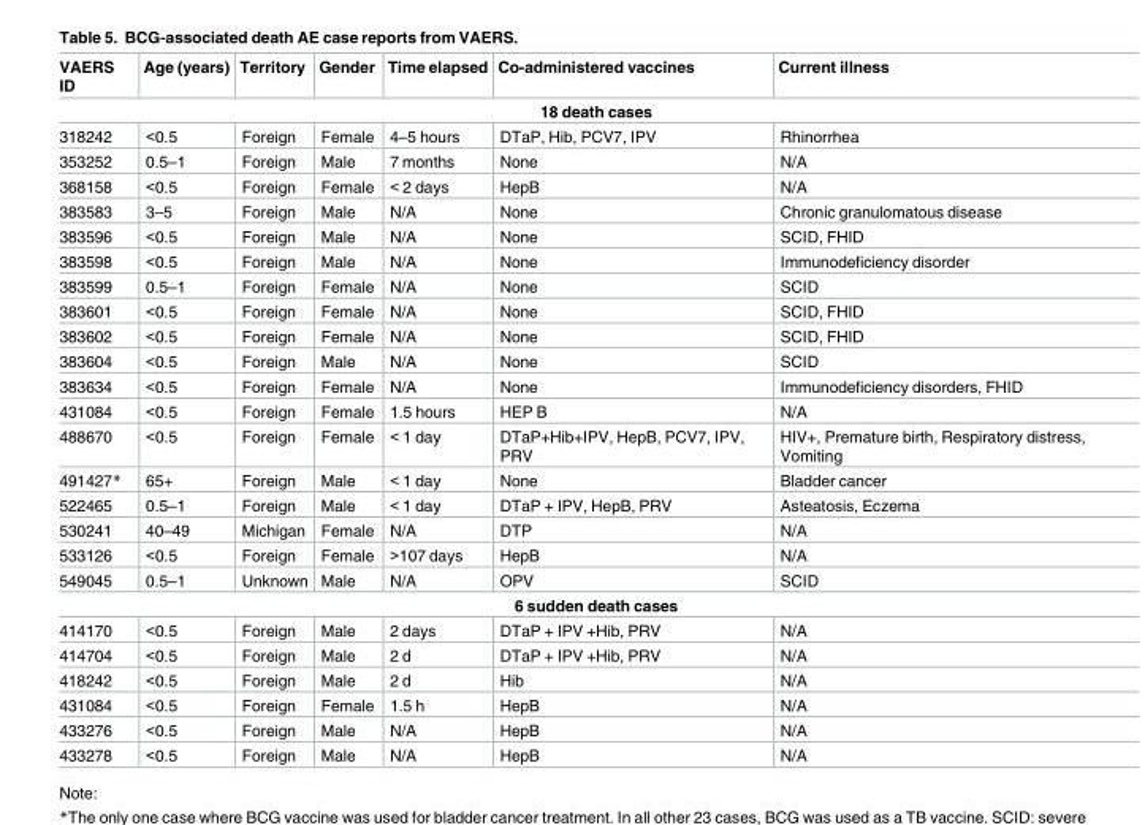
<table><thead><tr><td>VAERS ID</td><td>Age (years)</td><td>Territory</td><td>Gender</td><td>Time elapsed</td><td>Co-administered vaccines</td><td>Current illness</td></tr></thead><tbody><tr><td colspan="7">18 death cases</td></tr><tr><td>318242</td><td>&lt;0.5</td><td>Foreign</td><td>Female</td><td>4–5 hours</td><td>DTaP, Hib, PCV7, IPV</td><td>Rhinorrhea</td></tr><tr><td>353252</td><td>0.5–1</td><td>Foreign</td><td>Male</td><td>7 months</td><td>None</td><td>N/A</td></tr><tr><td>368158</td><td>&lt;0.5</td><td>Foreign</td><td>Female</td><td>&lt; 2 days</td><td>HepB</td><td>N/A</td></tr><tr><td>383583</td><td>3–5</td><td>Foreign</td><td>Male</td><td>N/A</td><td>None</td><td>Chronic granulomatous disease</td></tr><tr><td>383596</td><td>&lt;0.5</td><td>Foreign</td><td>Male</td><td>N/A</td><td>None</td><td>SCID, FHID</td></tr><tr><td>383598</td><td>&lt;0.5</td><td>Foreign</td><td>Male</td><td>N/A</td><td>None</td><td>Immunodeficiency disorder</td></tr><tr><td>383599</td><td>0.5–1</td><td>Foreign</td><td>Female</td><td>N/A</td><td>None</td><td>SCID</td></tr><tr><td>383601</td><td>&lt;0.5</td><td>Foreign</td><td>Female</td><td>N/A</td><td>None</td><td>SCID, FHID</td></tr><tr><td>383602</td><td>&lt;0.5</td><td>Foreign</td><td>Female</td><td>N/A</td><td>None</td><td>SCID, FHID</td></tr><tr><td>383604</td><td>&lt;0.5</td><td>Foreign</td><td>Male</td><td>N/A</td><td>None</td><td>SCID</td></tr><tr><td>383634</td><td>&lt;0.5</td><td>Foreign</td><td>Female</td><td>N/A</td><td>None</td><td>Immunodeficiency disorders, FHID</td></tr><tr><td>431084</td><td>&lt;0.5</td><td>Foreign</td><td>Female</td><td>1.5 hours</td><td>HEP B</td><td>N/A</td></tr><tr><td>488670</td><td>&lt;0.5</td><td>Foreign</td><td>Female</td><td>&lt; 1 day</td><td>DTaP+Hib+IPV, HepB, PCV7, IPV, PRV</td><td>HIV+, Premature birth, Respiratory distress, Vomiting</td></tr><tr><td>491427*</td><td>65+</td><td>Foreign</td><td>Male</td><td>&lt; 1 day</td><td>None</td><td>Bladder cancer</td></tr><tr><td>522465</td><td>0.5–1</td><td>Foreign</td><td>Male</td><td>&lt; 1 day</td><td>DTaP + IPV, HepB, PRV</td><td>Asteatosis, Eczema</td></tr><tr><td>530241</td><td>40–49</td><td>Michigan</td><td>Female</td><td>N/A</td><td>DTP</td><td>N/A</td></tr><tr><td>533126</td><td>&lt;0.5</td><td>Foreign</td><td>Female</td><td>&gt;107 days</td><td>HepB</td><td>N/A</td></tr><tr><td>549045</td><td>0.5–1</td><td>Unknown</td><td>Male</td><td>N/A</td><td>OPV</td><td>SCID</td></tr><tr><td colspan="7">6 sudden death cases</td></tr><tr><td>414170</td><td>&lt;0.5</td><td>Foreign</td><td>Male</td><td>2 days</td><td>DTaP + IPV +Hib, PRV</td><td>N/A</td></tr><tr><td>414704</td><td>&lt;0.5</td><td>Foreign</td><td>Male</td><td>2 d</td><td>DTaP + IPV +Hib, PRV</td><td>N/A</td></tr><tr><td>418242</td><td>&lt;0.5</td><td>Foreign</td><td>Male</td><td>2 d</td><td>Hib</td><td>N/A</td></tr><tr><td>431084</td><td>&lt;0.5</td><td>Foreign</td><td>Female</td><td>1.5 h</td><td>HepB</td><td>N/A</td></tr><tr><td>433276</td><td>&lt;0.5</td><td>Foreign</td><td>Male</td><td>N/A</td><td>HepB</td><td>N/A</td></tr><tr><td>433278</td><td>&lt;0.5</td><td>Foreign</td><td>Male</td><td>N/A</td><td>HepB</td><td>N/A</td></tr></tbody></table>